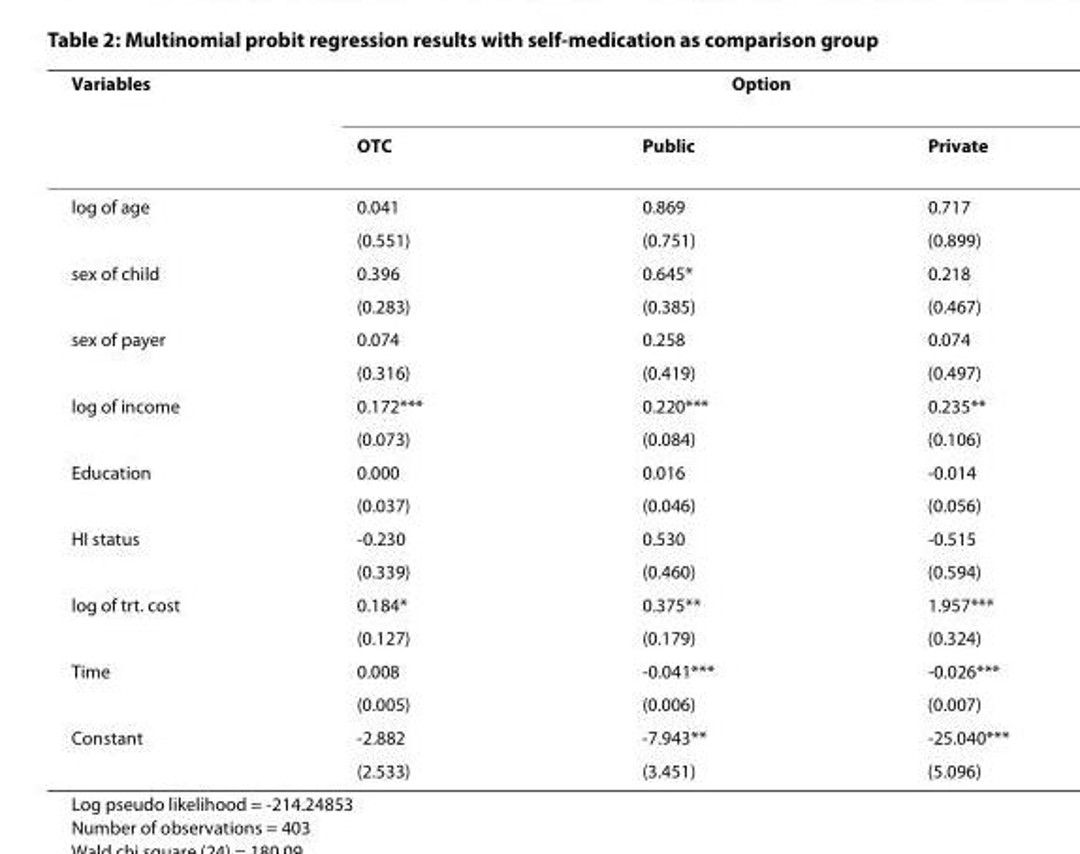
<table><thead><tr><td rowspan="2">Variables</td><td colspan="3">Option</td></tr><tr><td>OTC</td><td>Public</td><td>Private</td></tr></thead><tbody><tr><td rowspan="2">log of age</td><td>0.041</td><td>0.869</td><td>0.717</td></tr><tr><td>(0.551)</td><td>(0.751)</td><td>(0.899)</td></tr><tr><td rowspan="2">sex of child</td><td>0.396</td><td>0.645*</td><td>0.218</td></tr><tr><td>(0.283)</td><td>(0.385)</td><td>(0.467)</td></tr><tr><td rowspan="2">sex of payer</td><td>0.074</td><td>0.258</td><td>0.074</td></tr><tr><td>(0.316)</td><td>(0.419)</td><td>(0.497)</td></tr><tr><td rowspan="2">log of income</td><td>0.172***</td><td>0.220***</td><td>0.235**</td></tr><tr><td>(0.073)</td><td>(0.084)</td><td>(0.106)</td></tr><tr><td rowspan="2">Education</td><td>0.000</td><td>0.016</td><td>-0.014</td></tr><tr><td>(0.037)</td><td>(0.046)</td><td>(0.056)</td></tr><tr><td rowspan="2">HI status</td><td>-0.230</td><td>0.530</td><td>-0.515</td></tr><tr><td>(0.339)</td><td>(0.460)</td><td>(0.594)</td></tr><tr><td rowspan="2">log of trt. cost</td><td>0.184*</td><td>0.375**</td><td>1.957***</td></tr><tr><td>(0.127)</td><td>(0.179)</td><td>(0.324)</td></tr><tr><td rowspan="2">Time</td><td>0.008</td><td>-0.041***</td><td>-0.026***</td></tr><tr><td>(0.005)</td><td>(0.006)</td><td>(0.007)</td></tr><tr><td rowspan="2">Constant</td><td>-2.882</td><td>-7.943**</td><td>-25.040***</td></tr><tr><td>(2.533)</td><td>(3.451)</td><td>(5.096)</td></tr></tbody></table>